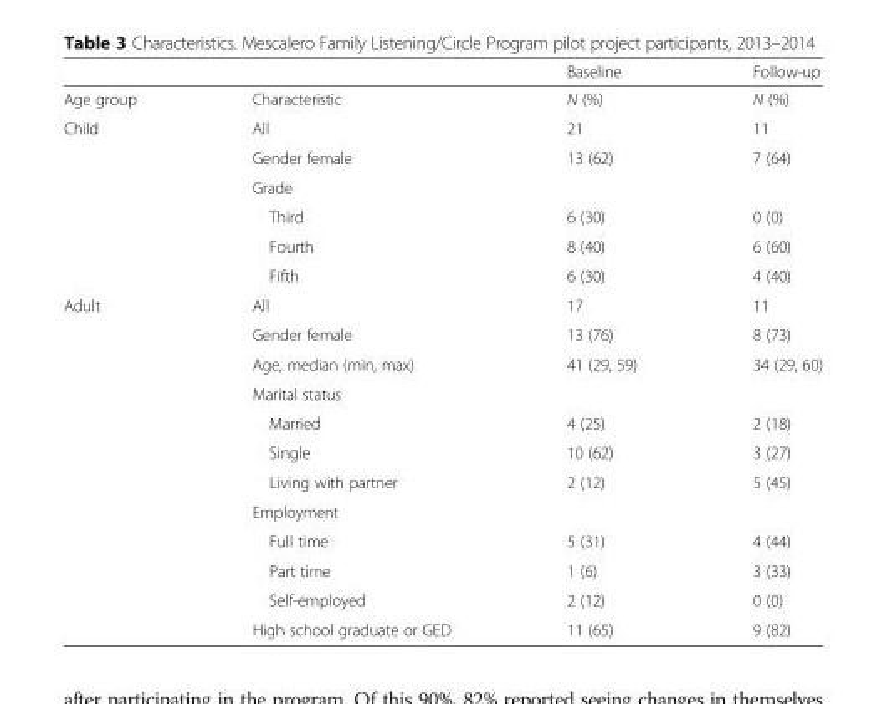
<table><thead><tr><td></td><td></td><td>Baseline</td><td>Follow-up</td></tr></thead><tbody><tr><td>Age group</td><td>Characteristic</td><td>N (%)</td><td>N (%)</td></tr><tr><td rowspan="6">Child</td><td>All</td><td>21</td><td>11</td></tr><tr><td>Gender female</td><td>13 (62)</td><td>7 (64)</td></tr><tr><td>Grade</td><td></td><td></td></tr><tr><td>Third</td><td>6 (30)</td><td>0 (0)</td></tr><tr><td>Fourth</td><td>8 (40)</td><td>6 (60)</td></tr><tr><td>Fifth</td><td>6 (30)</td><td>4 (40)</td></tr><tr><td rowspan="12">Adult</td><td>All</td><td>17</td><td>11</td></tr><tr><td>Gender female</td><td>13 (76)</td><td>8 (73)</td></tr><tr><td>Age, median (min, max)</td><td>41 (29, 59)</td><td>34 (29, 60)</td></tr><tr><td>Marital status</td><td></td><td></td></tr><tr><td>Married</td><td>4 (25)</td><td>2 (18)</td></tr><tr><td>Single</td><td>10 (62)</td><td>3 (27)</td></tr><tr><td>Living with partner</td><td>2 (12)</td><td>5 (45)</td></tr><tr><td>Employment</td><td></td><td></td></tr><tr><td>Full time</td><td>5 (31)</td><td>4 (44)</td></tr><tr><td>Part time</td><td>1 (6)</td><td>3 (33)</td></tr><tr><td>Self-employed</td><td>2 (12)</td><td>0 (0)</td></tr><tr><td>High school graduate or GED</td><td>11 (65)</td><td>9 (82)</td></tr></tbody></table>